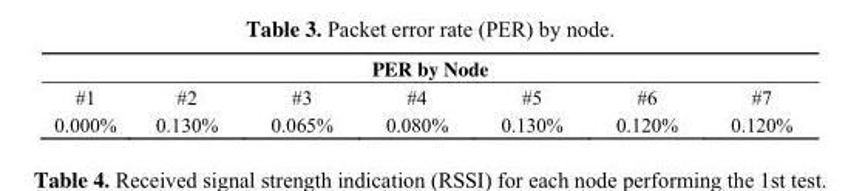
<table><thead><tr><td colspan="7">PER by Node</td></tr><tr><td>#1</td><td>#2</td><td>#3</td><td>#4</td><td>#5</td><td>#6</td><td>#7</td></tr></thead><tbody><tr><td>0.000%</td><td>0.130%</td><td>0.065%</td><td>0.080%</td><td>0.130%</td><td>0.120%</td><td>0.120%</td></tr></tbody></table>